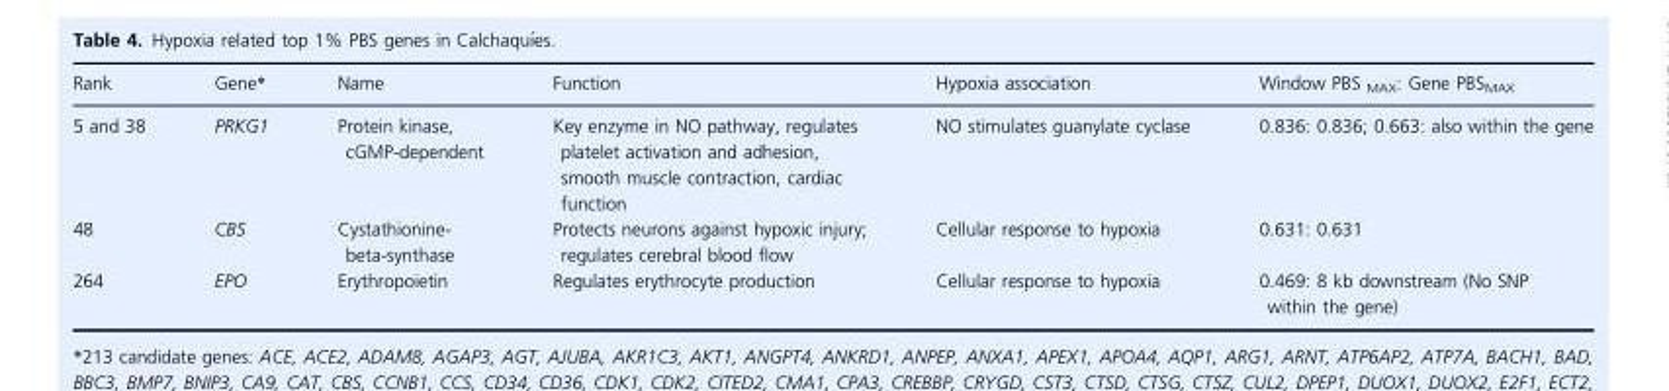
<table><thead><tr><td>Rank</td><td>Gene*</td><td>Name</td><td>Function</td><td>Hypoxia association</td><td>Window PBS <sub>MAX</sub>: Gene PBS<sub>MAX</sub></td></tr></thead><tbody><tr><td>5 and 38</td><td>PRKG1</td><td>Protein kinase, cGMP-dependent</td><td>Key enzyme in NO pathway, regulates platelet activation and adhesion, smooth muscle contraction, cardiac function</td><td>NO stimulates guanylate cyclase</td><td>0.836: 0.836; 0.663: also within the gene</td></tr><tr><td>48</td><td>CBS</td><td>Cystathionine- beta-synthase</td><td>Protects neurons against hypoxic injury; regulates cerebral blood flow</td><td>Cellular response to hypoxia</td><td>0.631: 0.631</td></tr><tr><td>264</td><td>EPO</td><td>Erythropoietin</td><td>Regulates erythrocyte production</td><td>Cellular response to hypoxia</td><td>0.469: 8 kb downstream (No SNP within the gene)</td></tr></tbody></table>